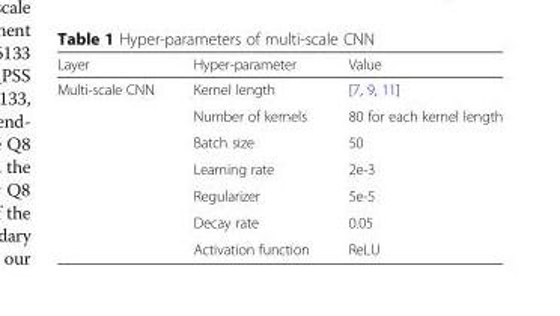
<table><thead><tr><td>Layer</td><td>Hyper-parameter</td><td>Value</td></tr></thead><tbody><tr><td rowspan="7">Multi-scale CNN</td><td>Kernel length</td><td>[7, 9, 11]</td></tr><tr><td>Number of kernels</td><td>80 for each kernel length</td></tr><tr><td>Batch size</td><td>50</td></tr><tr><td>Learning rate</td><td>2e-3</td></tr><tr><td>Regularizer</td><td>5e-5</td></tr><tr><td>Decay rate</td><td>0.05</td></tr><tr><td>Activation function</td><td>ReLU</td></tr></tbody></table>